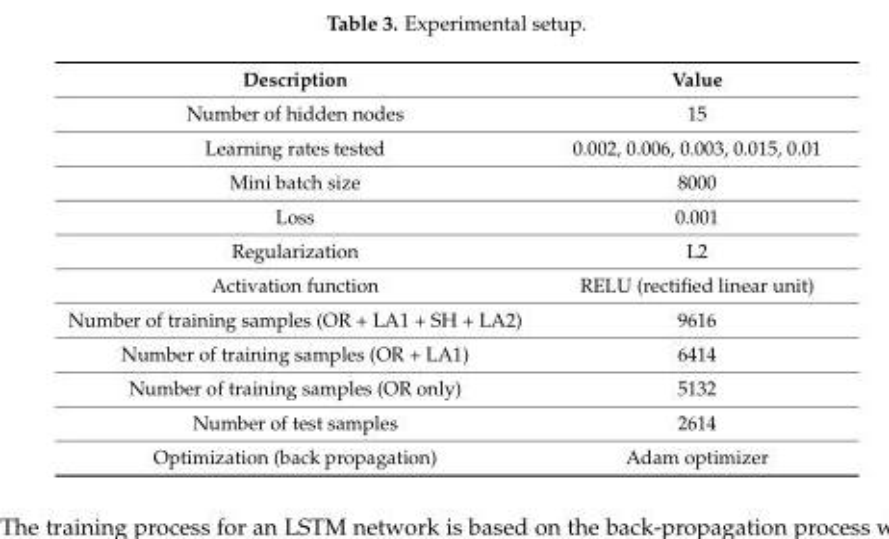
<table><thead><tr><td>Description</td><td>Value</td></tr></thead><tbody><tr><td>Number of hidden nodes</td><td>15</td></tr><tr><td>Learning rates tested</td><td>0.002, 0.006, 0.003, 0.015, 0.01</td></tr><tr><td>Mini batch size</td><td>8000</td></tr><tr><td>Loss</td><td>0.001</td></tr><tr><td>Regularization</td><td>L2</td></tr><tr><td>Activation function</td><td>RELU (rectified linear unit)</td></tr><tr><td>Number of training samples (OR + LA1 + SH + LA2)</td><td>9616</td></tr><tr><td>Number of training samples (OR + LA1)</td><td>6414</td></tr><tr><td>Number of training samples (OR only)</td><td>5132</td></tr><tr><td>Number of test samples</td><td>2614</td></tr><tr><td>Optimization (back propagation)</td><td>Adam optimizer</td></tr></tbody></table>